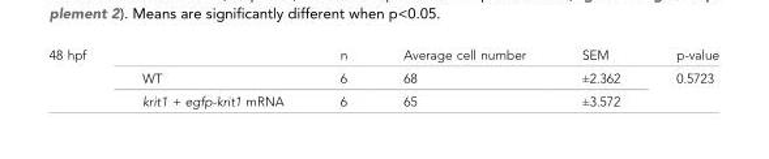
<table><tbody><tr><td rowspan="3">48 hpf</td><td></td><td>n</td><td>Average cell number</td><td>SEM</td><td>p-value</td></tr><tr><td>WT</td><td>6</td><td>68</td><td>±2.362</td><td rowspan="2">0.5723</td></tr><tr><td>krit1 + egfp-krit1 mRNA</td><td>6</td><td>65</td><td>±3.572</td></tr></tbody></table>